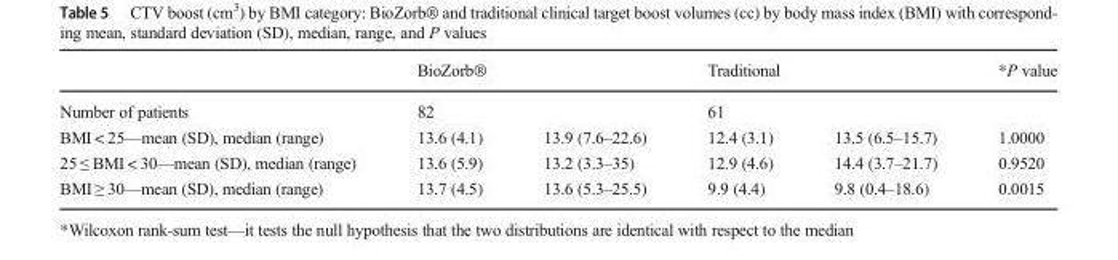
<table><thead><tr><td rowspan="3">Number of patients BMI &lt; 25—mean (SD), median (range)</td><td rowspan="2" colspan="2">BioZorb® 82</td><td rowspan="2" colspan="2">Traditional 61</td><td rowspan="3">*P value 1.0000</td></tr><tr></tr><tr><td>13.6 (4.1)</td><td>13.9 (7.6–22.6)</td><td>12.4 (3.1)</td><td>13.5 (6.5–15.7)</td></tr></thead><tbody><tr><td>25 ≤ BMI &lt; 30—mean (SD), median (range)</td><td>13.6 (5.9)</td><td>13.2 (3.3–35)</td><td>12.9 (4.6)</td><td>14.4 (3.7–21.7)</td><td>0.9520</td></tr><tr><td>BMI ≥ 30—mean (SD), median (range)</td><td>13.7 (4.5)</td><td>13.6 (5.3–25.5)</td><td>9.9 (4.4)</td><td>9.8 (0.4–18.6)</td><td>0.0015</td></tr></tbody></table>